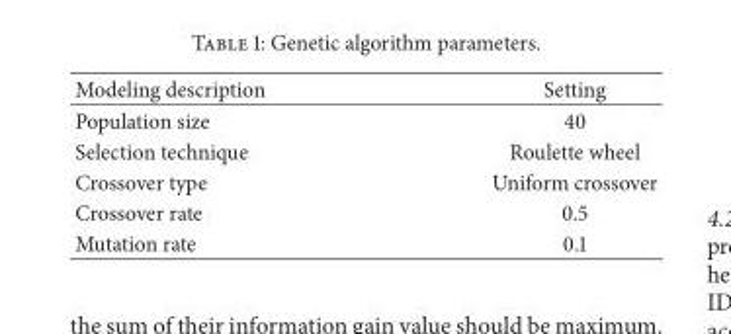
<table><thead><tr><td>Modeling description</td><td>Setting</td></tr></thead><tbody><tr><td>Population size</td><td>40</td></tr><tr><td>Selection technique</td><td>Roulette wheel</td></tr><tr><td>Crossover type</td><td>Uniform crossover</td></tr><tr><td>Crossover rate</td><td>0.5</td></tr><tr><td>Mutation rate</td><td>0.1</td></tr></tbody></table>